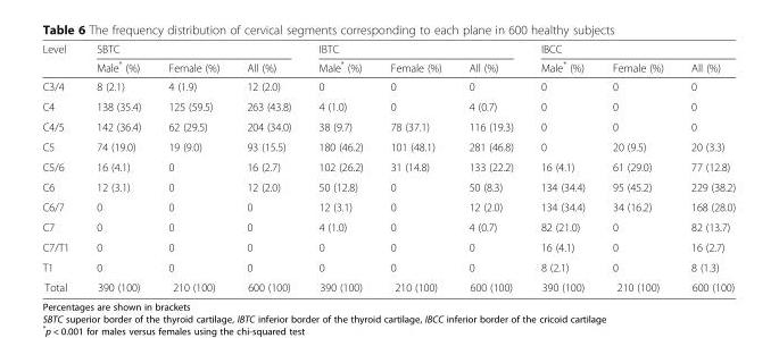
<table><thead><tr><td rowspan="2">Level</td><td colspan="3">SBTC</td><td colspan="3">IBTC</td><td colspan="3">IBCC</td></tr><tr><td>Male* (%)</td><td>Female (%)</td><td>All (%)</td><td>Male* (%)</td><td>Female (%)</td><td>All (%)</td><td>Male* (%)</td><td>Female (%)</td><td>All (%)</td></tr></thead><tbody><tr><td>C3/4</td><td>8 (2.1)</td><td>4 (1.9)</td><td>12 (2.0)</td><td>0</td><td>0</td><td>0</td><td>0</td><td>0</td><td>0</td></tr><tr><td>C4</td><td>138 (35.4)</td><td>125 (59.5)</td><td>263 (43.8)</td><td>4 (1.0)</td><td>0</td><td>4 (0.7)</td><td>0</td><td>0</td><td>0</td></tr><tr><td>C4/5</td><td>142 (36.4)</td><td>62 (29.5)</td><td>204 (34.0)</td><td>38 (9.7)</td><td>78 (37.1)</td><td>116 (19.3)</td><td>0</td><td>0</td><td>0</td></tr><tr><td>C5</td><td>74 (19.0)</td><td>19 (9.0)</td><td>93 (15.5)</td><td>180 (46.2)</td><td>101 (48.1)</td><td>281 (46.8)</td><td>0</td><td>20 (9.5)</td><td>20 (3.3)</td></tr><tr><td>C5/6</td><td>16 (4.1)</td><td>0</td><td>16 (2.7)</td><td>102 (26.2)</td><td>31 (14.8)</td><td>133 (22.2)</td><td>16 (4.1)</td><td>61 (29.0)</td><td>77 (12.8)</td></tr><tr><td>C6</td><td>12 (3.1)</td><td>0</td><td>12 (2.0)</td><td>50 (12.8)</td><td>0</td><td>50 (8.3)</td><td>134 (34.4)</td><td>95 (45.2)</td><td>229 (38.2)</td></tr><tr><td>C6/7</td><td>0</td><td>0</td><td>0</td><td>12 (3.1)</td><td>0</td><td>12 (2.0)</td><td>134 (34.4)</td><td>34 (16.2)</td><td>168 (28.0)</td></tr><tr><td>C7</td><td>0</td><td>0</td><td>0</td><td>4 (1.0)</td><td>0</td><td>4 (0.7)</td><td>82 (21.0)</td><td>0</td><td>82 (13.7)</td></tr><tr><td>C7/T1</td><td>0</td><td>0</td><td>0</td><td>0</td><td>0</td><td>0</td><td>16 (4.1)</td><td>0</td><td>16 (2.7)</td></tr><tr><td>T1</td><td>0</td><td>0</td><td>0</td><td>0</td><td>0</td><td>0</td><td>8 (2.1)</td><td>0</td><td>8 (1.3)</td></tr><tr><td>Total</td><td>390 (100)</td><td>210 (100)</td><td>600 (100)</td><td>390 (100)</td><td>210 (100)</td><td>600 (100)</td><td>390 (100)</td><td>210 (100)</td><td>600 (100)</td></tr></tbody></table>